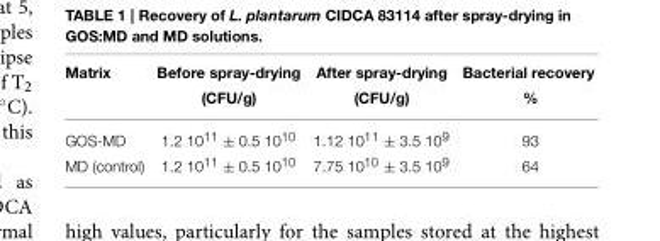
<table><thead><tr><td>Matrix</td><td>Before spray-drying (CFU/g)</td><td>After spray-drying (CFU/g)</td><td>Bacterial recovery %</td></tr></thead><tbody><tr><td>GOS-MD</td><td>1.2 10<sup>11</sup> ± 0.5 10<sup>10</sup></td><td>1.12 10<sup>11</sup> ± 3.5 10<sup>9</sup></td><td>93</td></tr><tr><td>MD (control)</td><td>1.2 10<sup>11</sup> ± 0.5 10<sup>10</sup></td><td>7.75 10<sup>10</sup> ± 3.5 10<sup>9</sup></td><td>64</td></tr></tbody></table>